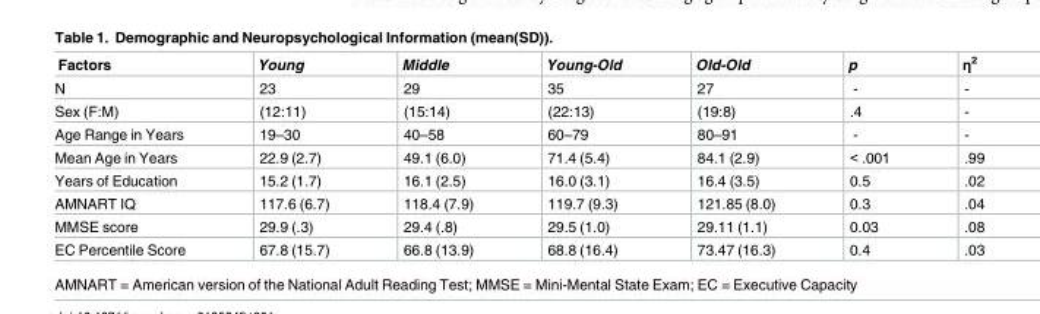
<table><thead><tr><td>Factors</td><td>Young</td><td>Middle</td><td>Young-Old</td><td>Old-Old</td><td>p</td><td>η<sup>2</sup></td></tr></thead><tbody><tr><td>N</td><td>23</td><td>29</td><td>35</td><td>27</td><td>-</td><td>-</td></tr><tr><td>Sex (F:M)</td><td>(12:11)</td><td>(15:14)</td><td>(22:13)</td><td>(19:8)</td><td>.4</td><td>-</td></tr><tr><td>Age Range in Years</td><td>19–30</td><td>40–58</td><td>60–79</td><td>80–91</td><td>-</td><td>-</td></tr><tr><td>Mean Age in Years</td><td>22.9 (2.7)</td><td>49.1 (6.0)</td><td>71.4 (5.4)</td><td>84.1 (2.9)</td><td>&lt; .001</td><td>.99</td></tr><tr><td>Years of Education</td><td>15.2 (1.7)</td><td>16.1 (2.5)</td><td>16.0 (3.1)</td><td>16.4 (3.5)</td><td>0.5</td><td>.02</td></tr><tr><td>AMNART IQ</td><td>117.6 (6.7)</td><td>118.4 (7.9)</td><td>119.7 (9.3)</td><td>121.85 (8.0)</td><td>0.3</td><td>.04</td></tr><tr><td>MMSE score</td><td>29.9 (.3)</td><td>29.4 (.8)</td><td>29.5 (1.0)</td><td>29.11 (1.1)</td><td>0.03</td><td>.08</td></tr><tr><td>EC Percentile Score</td><td>67.8 (15.7)</td><td>66.8 (13.9)</td><td>68.8 (16.4)</td><td>73.47 (16.3)</td><td>0.4</td><td>.03</td></tr></tbody></table>